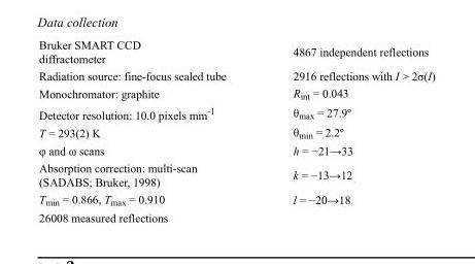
<table><tbody><tr><td>Bruker SMART CCD diffractometer</td><td>4867 independent reflections</td></tr><tr><td>Radiation source: fine-focus sealed tube</td><td>2916 reflections with I &gt; 2σ(I)</td></tr><tr><td>Monochromator: graphite</td><td>R<sub>int</sub> = 0.043</td></tr><tr><td>Detector resolution: 10.0 pixels mm<sup>-1</sup></td><td>θ<sub>max</sub> = 27.9º</td></tr><tr><td>T = 293(2) K</td><td>θ<sub>min</sub> = 2.2º</td></tr><tr><td>φ and ω scans</td><td>h = −21→33</td></tr><tr><td>Absorption correction: multi-scan (SADABS; Bruker, 1998)</td><td>k = −13→12</td></tr><tr><td>T<sub>min</sub> = 0.866, T<sub>max</sub> = 0.910</td><td>l = −20→18</td></tr><tr><td>26008 measured reflections</td><td></td></tr></tbody></table>